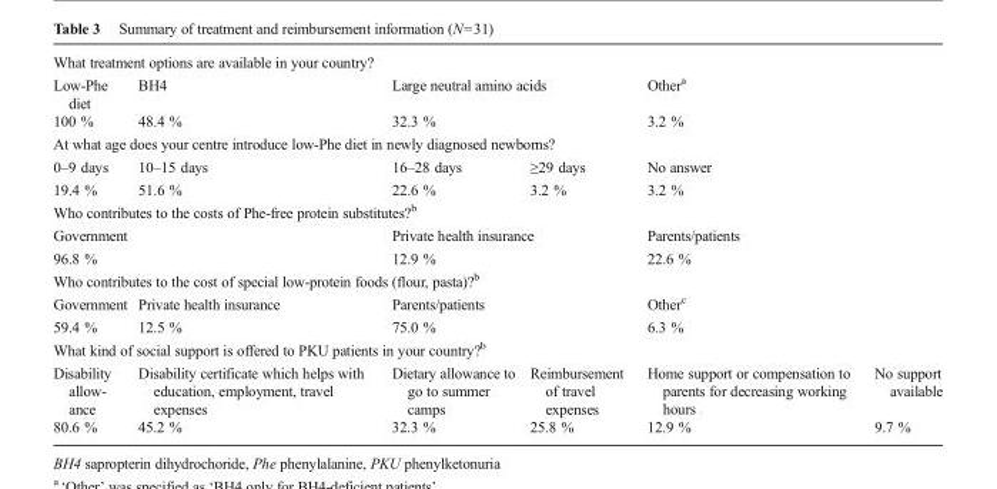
<table><tbody><tr><td colspan="6">What treatment options are available in your country?</td></tr><tr><td>Low-Phe diet</td><td>BH4</td><td colspan="2">Large neutral amino acids</td><td colspan="2">Other<sup>a</sup></td></tr><tr><td>100 %</td><td>48.4 %</td><td colspan="2">32.3 %</td><td>3.2 %</td><td></td></tr><tr><td colspan="6">At what age does your centre introduce low-Phe diet in newly diagnosed newborns?</td></tr><tr><td>0–9 days</td><td>10–15 days</td><td>16–28 days</td><td>≥29 days</td><td colspan="2">No answer</td></tr><tr><td>19.4 %</td><td>51.6 %</td><td>22.6 %</td><td>3.2 %</td><td colspan="2">3.2 %</td></tr><tr><td colspan="6">Who contributes to the costs of Phe-free protein substitutes?<sup>b</sup></td></tr><tr><td colspan="2">Government</td><td colspan="2">Private health insurance</td><td colspan="2">Parents/patients</td></tr><tr><td colspan="2">96.8 %</td><td colspan="2">12.9 %</td><td colspan="2">22.6 %</td></tr><tr><td colspan="6">Who contributes to the cost of special low-protein foods (flour, pasta)?<sup>b</sup></td></tr><tr><td>Government</td><td>Private health insurance</td><td colspan="2">Parents/patients</td><td colspan="2">Other<sup>c</sup></td></tr><tr><td>59.4 %</td><td>12.5 %</td><td colspan="2">75.0 %</td><td colspan="2">6.3 %</td></tr><tr><td colspan="6">What kind of social support is offered to PKU patients in your country?<sup>b</sup></td></tr><tr><td>Disability allow- ance</td><td>Disability certificate which helps with education, employment, travel expenses</td><td>Dietary allowance to go to summer camps</td><td>Reimbursement of travel expenses</td><td>Home support or compensation to parents for decreasing working hours</td><td>No support available</td></tr><tr><td>80.6 %</td><td>45.2 %</td><td>32.3 %</td><td>25.8 %</td><td>12.9 %</td><td>9.7 %</td></tr></tbody></table>